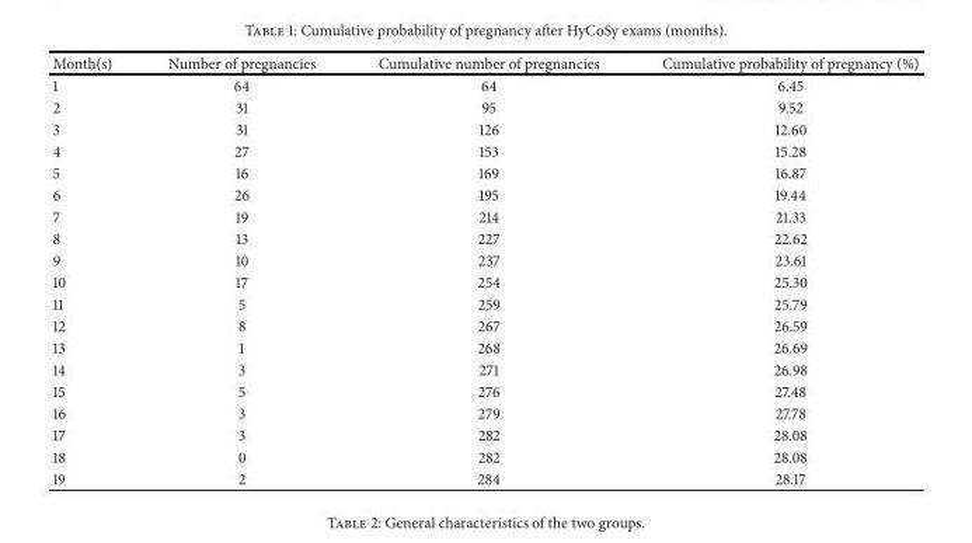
<table><thead><tr><td>Month(s)</td><td>Number of pregnancies</td><td>Cumulative number of pregnancies</td><td>Cumulative probability of pregnancy (%)</td></tr></thead><tbody><tr><td>1</td><td>64</td><td>64</td><td>6.45</td></tr><tr><td>2</td><td>31</td><td>95</td><td>9.52</td></tr><tr><td>3</td><td>31</td><td>126</td><td>12.60</td></tr><tr><td>4</td><td>27</td><td>153</td><td>15.28</td></tr><tr><td>5</td><td>16</td><td>169</td><td>16.87</td></tr><tr><td>6</td><td>26</td><td>195</td><td>19.44</td></tr><tr><td>7</td><td>19</td><td>214</td><td>21.33</td></tr><tr><td>8</td><td>13</td><td>227</td><td>22.62</td></tr><tr><td>9</td><td>10</td><td>237</td><td>23.61</td></tr><tr><td>10</td><td>17</td><td>254</td><td>25.30</td></tr><tr><td>11</td><td>5</td><td>259</td><td>25.79</td></tr><tr><td>12</td><td>8</td><td>267</td><td>26.59</td></tr><tr><td>13</td><td>1</td><td>268</td><td>26.69</td></tr><tr><td>14</td><td>3</td><td>271</td><td>26.98</td></tr><tr><td>15</td><td>5</td><td>276</td><td>27.48</td></tr><tr><td>16</td><td>3</td><td>279</td><td>27.78</td></tr><tr><td>17</td><td>3</td><td>282</td><td>28.08</td></tr><tr><td>18</td><td>0</td><td>282</td><td>28.08</td></tr><tr><td>19</td><td>2</td><td>284</td><td>28.17</td></tr></tbody></table>